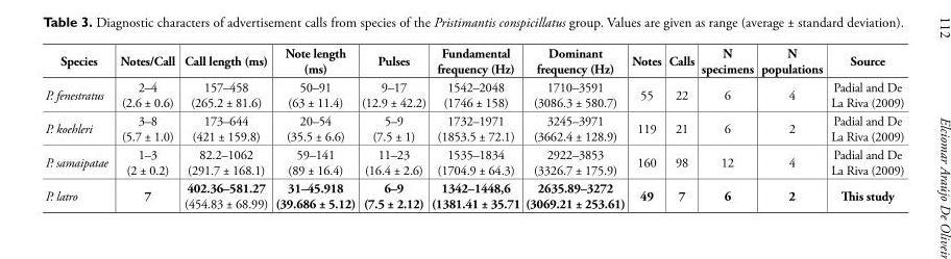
<table><thead><tr><td>Species</td><td>Notes/Call</td><td>Call length (ms)</td><td>Note length (ms)</td><td>Pulses</td><td>Fundamental frequency (Hz)</td><td>Dominant frequency (Hz)</td><td>Notes</td><td>Calls</td><td>N specimens</td><td>N populations</td><td>Source</td></tr></thead><tbody><tr><td>P. fenestratus</td><td>2–4 (2.6 ± 0.6)</td><td>157–458 (265.2 ± 81.6)</td><td>50–91 (63 ± 11.4)</td><td>9–17 (12.9 ± 42.2)</td><td>1542–2048 (1746 ± 158)</td><td>1710–3591 (3086.3 ± 580.7)</td><td>55</td><td>22</td><td>6</td><td>4</td><td>Padial and De La Riva (2009)</td></tr><tr><td>P. koehleri</td><td>3–8 (5.7 ± 1.0)</td><td>173–644 (421 ± 159.8)</td><td>20–54 (35.5 ± 6.6)</td><td>5–9 (7.5 ± 1)</td><td>1732–1971 (1853.5 ± 72.1)</td><td>3245–3971 (3662.4 ± 128.9)</td><td>119</td><td>21</td><td>6</td><td>2</td><td>Padial and De La Riva (2009)</td></tr><tr><td>P. samaipatae</td><td>1–3 (2 ± 0.2)</td><td>82.2–1062 (291.7 ± 168.1)</td><td>59–141 (89 ± 16.4)</td><td>11–23 (16.4 ± 2.6)</td><td>1535–1834 (1704.9 ± 64.3)</td><td>2922–3853 (3326.7 ± 175.9)</td><td>160</td><td>98</td><td>12</td><td>4</td><td>Padial and De La Riva (2009)</td></tr><tr><td>P. latro</td><td>7</td><td>402.36–581.27 (454.83 ± 68.99)</td><td>31–45.918 (39.686 ± 5.12)</td><td>6–9 (7.5 ± 2.12)</td><td>1342–1448,6 (1381.41 ± 35.71</td><td>2635.89–3272 (3069.21 ± 253.61)</td><td>49</td><td>7</td><td>6</td><td>2</td><td>This study</td></tr></tbody></table>